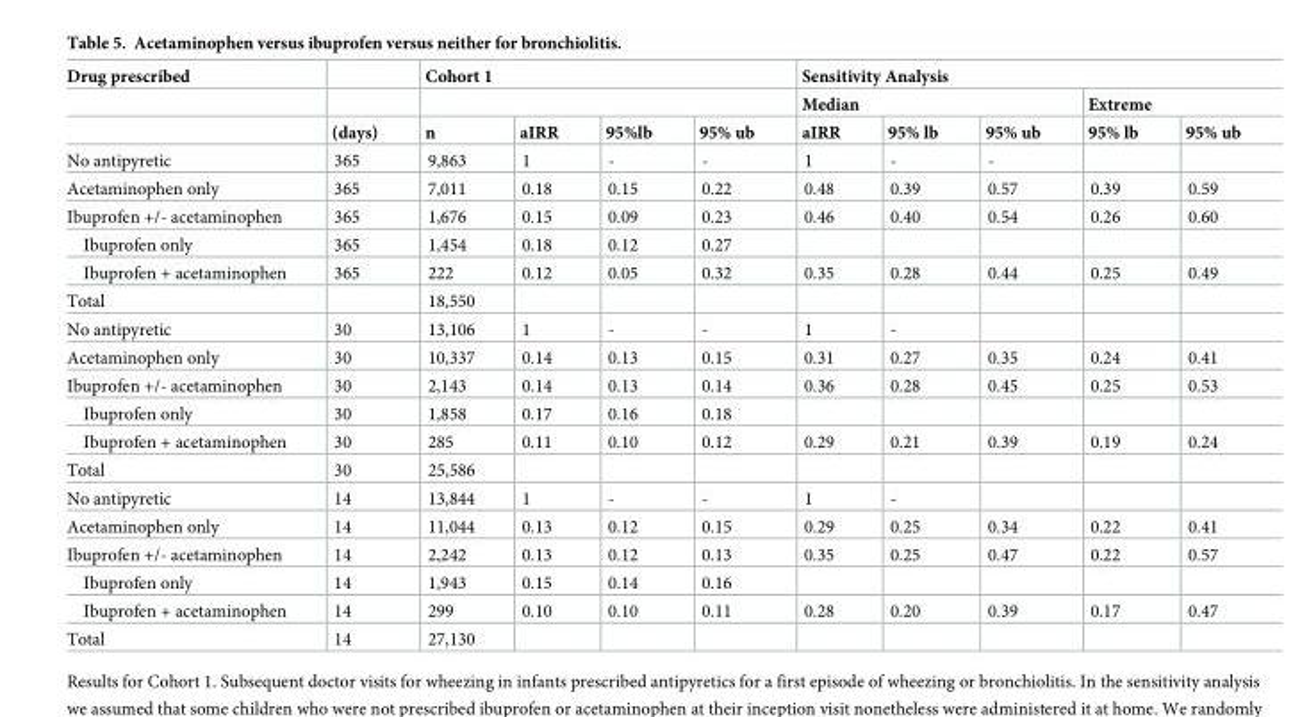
<table><thead><tr><td rowspan="3">Drug prescribed</td><td rowspan="3">(days)</td><td colspan="4">Cohort 1</td><td colspan="5">Sensitivity Analysis</td></tr><tr><td rowspan="2">n</td><td rowspan="2">aIRR</td><td rowspan="2">95%lb</td><td rowspan="2">95% ub</td><td colspan="3">Median</td><td colspan="2">Extreme</td></tr><tr><td>aIRR</td><td>95% lb</td><td>95% ub</td><td>95% lb</td><td>95% ub</td></tr></thead><tbody><tr><td>No antipyretic</td><td>365</td><td>9,863</td><td>1</td><td>-</td><td>-</td><td>1</td><td>-</td><td>-</td><td></td><td></td></tr><tr><td>Acetaminophen only</td><td>365</td><td>7,011</td><td>0.18</td><td>0.15</td><td>0.22</td><td>0.48</td><td>0.39</td><td>0.57</td><td>0.39</td><td>0.59</td></tr><tr><td>Ibuprofen +/- acetaminophen</td><td>365</td><td>1,676</td><td>0.15</td><td>0.09</td><td>0.23</td><td>0.46</td><td>0.40</td><td>0.54</td><td>0.26</td><td>0.60</td></tr><tr><td>Ibuprofen only</td><td>365</td><td>1,454</td><td>0.18</td><td>0.12</td><td>0.27</td><td></td><td></td><td></td><td></td><td></td></tr><tr><td>Ibuprofen + acetaminophen</td><td>365</td><td>222</td><td>0.12</td><td>0.05</td><td>0.32</td><td>0.35</td><td>0.28</td><td>0.44</td><td>0.25</td><td>0.49</td></tr><tr><td>Total</td><td></td><td>18,550</td><td></td><td></td><td></td><td></td><td></td><td></td><td></td><td></td></tr><tr><td>No antipyretic</td><td>30</td><td>13,106</td><td>1</td><td>-</td><td>-</td><td>1</td><td>-</td><td></td><td></td><td></td></tr><tr><td>Acetaminophen only</td><td>30</td><td>10,337</td><td>0.14</td><td>0.13</td><td>0.15</td><td>0.31</td><td>0.27</td><td>0.35</td><td>0.24</td><td>0.41</td></tr><tr><td>Ibuprofen +/- acetaminophen</td><td>30</td><td>2,143</td><td>0.14</td><td>0.13</td><td>0.14</td><td>0.36</td><td>0.28</td><td>0.45</td><td>0.25</td><td>0.53</td></tr><tr><td>Ibuprofen only</td><td>30</td><td>1,858</td><td>0.17</td><td>0.16</td><td>0.18</td><td></td><td></td><td></td><td></td><td></td></tr><tr><td>Ibuprofen + acetaminophen</td><td>30</td><td>285</td><td>0.11</td><td>0.10</td><td>0.12</td><td>0.29</td><td>0.21</td><td>0.39</td><td>0.19</td><td>0.24</td></tr><tr><td>Total</td><td>30</td><td>25,586</td><td></td><td></td><td></td><td></td><td></td><td></td><td></td><td></td></tr><tr><td>No antipyretic</td><td>14</td><td>13,844</td><td>1</td><td>-</td><td>-</td><td>1</td><td>-</td><td></td><td></td><td></td></tr><tr><td>Acetaminophen only</td><td>14</td><td>11,044</td><td>0.13</td><td>0.12</td><td>0.15</td><td>0.29</td><td>0.25</td><td>0.34</td><td>0.22</td><td>0.41</td></tr><tr><td>Ibuprofen +/- acetaminophen</td><td>14</td><td>2,242</td><td>0.13</td><td>0.12</td><td>0.13</td><td>0.35</td><td>0.25</td><td>0.47</td><td>0.22</td><td>0.57</td></tr><tr><td>Ibuprofen only</td><td>14</td><td>1,943</td><td>0.15</td><td>0.14</td><td>0.16</td><td></td><td></td><td></td><td></td><td></td></tr><tr><td>Ibuprofen + acetaminophen</td><td>14</td><td>299</td><td>0.10</td><td>0.10</td><td>0.11</td><td>0.28</td><td>0.20</td><td>0.39</td><td>0.17</td><td>0.47</td></tr><tr><td>Total</td><td>14</td><td>27,130</td><td></td><td></td><td></td><td></td><td></td><td></td><td></td><td></td></tr></tbody></table>